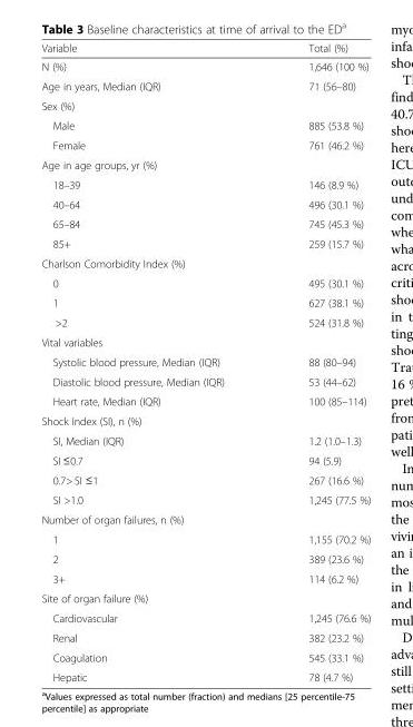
<table><thead><tr><td>Variable</td><td>Total (%)</td></tr></thead><tbody><tr><td>N (%)</td><td>1,646 (100 %)</td></tr><tr><td>Age in years, Median (IQR)</td><td>71 (56–80)</td></tr><tr><td colspan="2">Sex (%)</td></tr><tr><td>Male</td><td>885 (53.8 %)</td></tr><tr><td>Female</td><td>761 (46.2 %)</td></tr><tr><td colspan="2">Age in age groups, yr (%)</td></tr><tr><td>18–39</td><td>146 (8.9 %)</td></tr><tr><td>40–64</td><td>496 (30.1 %)</td></tr><tr><td>65–84</td><td>745 (45.3 %)</td></tr><tr><td>85+</td><td>259 (15.7 %)</td></tr><tr><td colspan="2">Charlson Comorbidity Index (%)</td></tr><tr><td>0</td><td>495 (30.1 %)</td></tr><tr><td>1</td><td>627 (38.1 %)</td></tr><tr><td>&gt;2</td><td>524 (31.8 %)</td></tr><tr><td colspan="2">Vital variables</td></tr><tr><td>Systolic blood pressure, Median (IQR)</td><td>88 (80–94)</td></tr><tr><td>Diastolic blood pressure, Median (IQR)</td><td>53 (44–62)</td></tr><tr><td>Heart rate, Median (IQR)</td><td>100 (85–114)</td></tr><tr><td colspan="2">Shock Index (SI), n (%)</td></tr><tr><td>SI, Median (IQR)</td><td>1.2 (1.0–1.3)</td></tr><tr><td>SI ≤0.7</td><td>94 (5.9)</td></tr><tr><td>0.7&gt; SI ≤1</td><td>267 (16.6 %)</td></tr><tr><td>SI &gt;1.0</td><td>1,245 (77.5 %)</td></tr><tr><td colspan="2">Number of organ failures, n (%)</td></tr><tr><td>1</td><td>1,155 (70.2 %)</td></tr><tr><td>2</td><td>389 (23.6 %)</td></tr><tr><td>3+</td><td>114 (6.2 %)</td></tr><tr><td colspan="2">Site of organ failure (%)</td></tr><tr><td>Cardiovascular</td><td>1,245 (76.6 %)</td></tr><tr><td>Renal</td><td>382 (23.2 %)</td></tr><tr><td>Coagulation</td><td>545 (33.1 %)</td></tr><tr><td>Hepatic</td><td>78 (4.7 %)</td></tr></tbody></table>